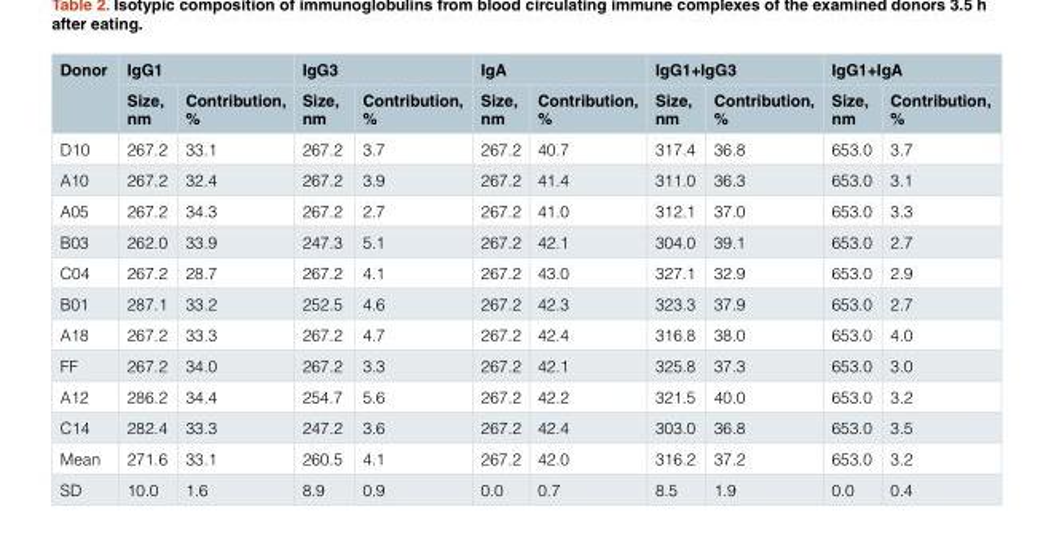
<table><thead><tr><td rowspan="2">Donor</td><td colspan="2">IgG1</td><td colspan="2">IgG3</td><td colspan="2">IgA</td><td colspan="2">IgG1+IgG3</td><td colspan="2">IgG1+IgA</td></tr><tr><td>Size, nm</td><td>Contribution, %</td><td>Size, nm</td><td>Contribution, %</td><td>Size, nm</td><td>Contribution, %</td><td>Size, nm</td><td>Contribution, %</td><td>Size, nm</td><td>Contribution, %</td></tr></thead><tbody><tr><td>D10</td><td>267.2</td><td>33.1</td><td>267.2</td><td>3.7</td><td>267.2</td><td>40.7</td><td>317.4</td><td>36.8</td><td>653.0</td><td>3.7</td></tr><tr><td>A10</td><td>267.2</td><td>32.4</td><td>267.2</td><td>3.9</td><td>267.2</td><td>41.4</td><td>311.0</td><td>36.3</td><td>653.0</td><td>3.1</td></tr><tr><td>A05</td><td>267.2</td><td>34.3</td><td>267.2</td><td>2.7</td><td>267.2</td><td>41.0</td><td>312.1</td><td>37.0</td><td>653.0</td><td>3.3</td></tr><tr><td>B03</td><td>262.0</td><td>33.9</td><td>247.3</td><td>5.1</td><td>267.2</td><td>42.1</td><td>304.0</td><td>39.1</td><td>653.0</td><td>2.7</td></tr><tr><td>C04</td><td>267.2</td><td>28.7</td><td>267.2</td><td>4.1</td><td>267.2</td><td>43.0</td><td>327.1</td><td>32.9</td><td>653.0</td><td>2.9</td></tr><tr><td>B01</td><td>287.1</td><td>33.2</td><td>252.5</td><td>4.6</td><td>267.2</td><td>42.3</td><td>323.3</td><td>37.9</td><td>653.0</td><td>2.7</td></tr><tr><td>A18</td><td>267.2</td><td>33.3</td><td>267.2</td><td>4.7</td><td>267.2</td><td>42.4</td><td>316.8</td><td>38.0</td><td>653.0</td><td>4.0</td></tr><tr><td>FF</td><td>267.2</td><td>34.0</td><td>267.2</td><td>3.3</td><td>267.2</td><td>42.1</td><td>325.8</td><td>37.3</td><td>653.0</td><td>3.0</td></tr><tr><td>A12</td><td>286.2</td><td>34.4</td><td>254.7</td><td>5.6</td><td>267.2</td><td>42.2</td><td>321.5</td><td>40.0</td><td>653.0</td><td>3.2</td></tr><tr><td>C14</td><td>282.4</td><td>33.3</td><td>247.2</td><td>3.6</td><td>267.2</td><td>42.4</td><td>303.0</td><td>36.8</td><td>653.0</td><td>3.5</td></tr><tr><td>Mean</td><td>271.6</td><td>33.1</td><td>260.5</td><td>4.1</td><td>267.2</td><td>42.0</td><td>316.2</td><td>37.2</td><td>653.0</td><td>3.2</td></tr><tr><td>SD</td><td>10.0</td><td>1.6</td><td>8.9</td><td>0.9</td><td>0.0</td><td>0.7</td><td>8.5</td><td>1.9</td><td>0.0</td><td>0.4</td></tr></tbody></table>